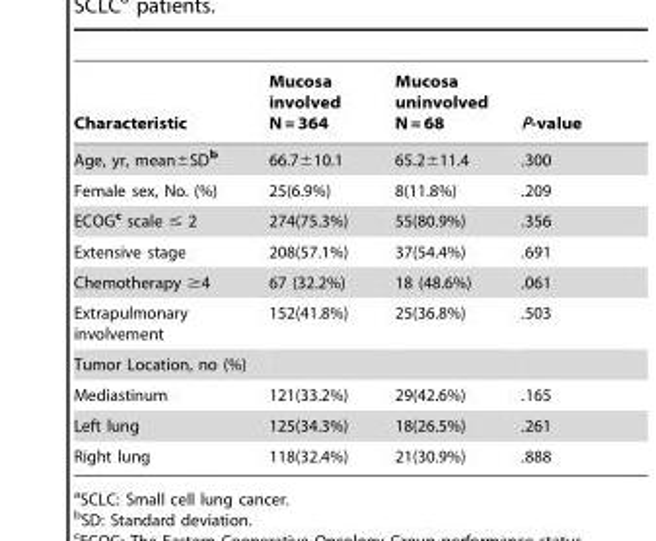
<table><thead><tr><td>Characteristic</td><td>Mucosa involved N = 364</td><td>Mucosa uninvolved N = 68</td><td>P-value</td></tr></thead><tbody><tr><td>Age, yr, mean±SD<sup>b</sup></td><td>66.7±10.1</td><td>65.2±11.4</td><td>.300</td></tr><tr><td>Female sex, No. (%)</td><td>25(6.9%)</td><td>8(11.8%)</td><td>.209</td></tr><tr><td>ECOG<sup>c</sup> scale ≤ 2</td><td>274(75.3%)</td><td>55(80.9%)</td><td>.356</td></tr><tr><td>Extensive stage</td><td>208(57.1%)</td><td>37(54.4%)</td><td>.691</td></tr><tr><td>Chemotherapy ≥4</td><td>67 (32.2%)</td><td>18 (48.6%)</td><td>.061</td></tr><tr><td>Extrapulmonary involvement</td><td>152(41.8%)</td><td>25(36.8%)</td><td>.503</td></tr><tr><td colspan="4">Tumor Location, no (%)</td></tr><tr><td>Mediastinum</td><td>121(33.2%)</td><td>29(42.6%)</td><td>.165</td></tr><tr><td>Left lung</td><td>125(34.3%)</td><td>18(26.5%)</td><td>.261</td></tr><tr><td>Right lung</td><td>118(32.4%)</td><td>21(30.9%)</td><td>.888</td></tr></tbody></table>